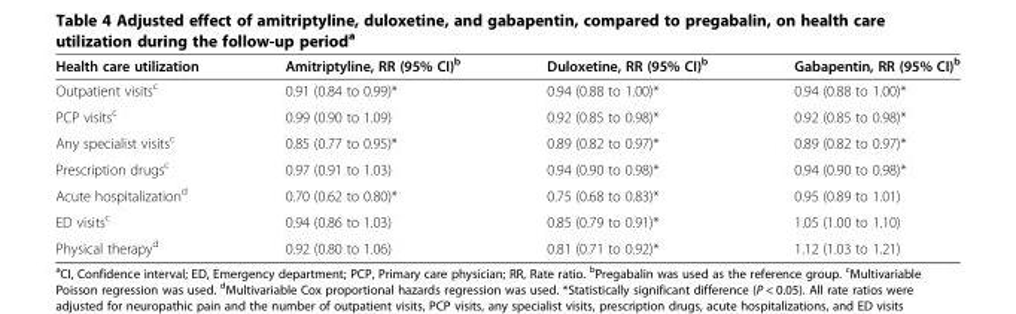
<table><thead><tr><td>Health care utilization</td><td>Amitriptyline, RR (95% CI)<sup>b</sup></td><td>Duloxetine, RR (95% CI)<sup>b</sup></td><td>Gabapentin, RR (95% CI)<sup>b</sup></td></tr></thead><tbody><tr><td>Outpatient visits<sup>c</sup></td><td>0.91 (0.84 to 0.99)*</td><td>0.94 (0.88 to 1.00)*</td><td>0.94 (0.88 to 1.00)*</td></tr><tr><td>PCP visits<sup>c</sup></td><td>0.99 (0.90 to 1.09)</td><td>0.92 (0.85 to 0.98)*</td><td>0.92 (0.85 to 0.98)*</td></tr><tr><td>Any specialist visits<sup>c</sup></td><td>0.85 (0.77 to 0.95)*</td><td>0.89 (0.82 to 0.97)*</td><td>0.89 (0.82 to 0.97)*</td></tr><tr><td>Prescription drugs<sup>c</sup></td><td>0.97 (0.91 to 1.03)</td><td>0.94 (0.90 to 0.98)*</td><td>0.94 (0.90 to 0.98)*</td></tr><tr><td>Acute hospitalization<sup>d</sup></td><td>0.70 (0.62 to 0.80)*</td><td>0.75 (0.68 to 0.83)*</td><td>0.95 (0.89 to 1.01)</td></tr><tr><td>ED visits<sup>c</sup></td><td>0.94 (0.86 to 1.03)</td><td>0.85 (0.79 to 0.91)*</td><td>1.05 (1.00 to 1.10)</td></tr><tr><td>Physical therapy<sup>d</sup></td><td>0.92 (0.80 to 1.06)</td><td>0.81 (0.71 to 0.92)*</td><td>1.12 (1.03 to 1.21)</td></tr></tbody></table>